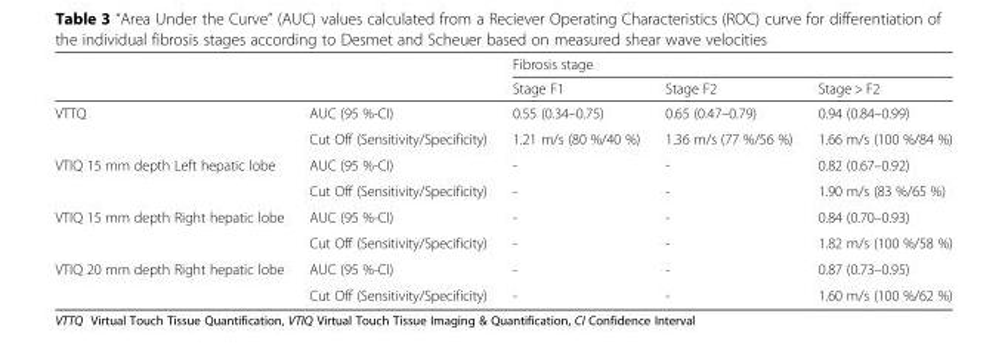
<table><thead><tr><td rowspan="2"></td><td rowspan="2"></td><td colspan="3">Fibrosis stage</td></tr><tr><td>Stage F1</td><td>Stage F2</td><td>Stage &gt; F2</td></tr></thead><tbody><tr><td rowspan="2">VTTQ</td><td>AUC (95 %-CI)</td><td>0.55 (0.34–0.75)</td><td>0.65 (0.47–0.79)</td><td>0.94 (0.84–0.99)</td></tr><tr><td>Cut Off (Sensitivity/Specificity)</td><td>1.21 m/s (80 %/40 %)</td><td>1.36 m/s (77 %/56 %)</td><td>1.66 m/s (100 %/84 %)</td></tr><tr><td rowspan="2">VTIQ 15 mm depth Left hepatic lobe</td><td>AUC (95 %-CI)</td><td>-</td><td>-</td><td>0.82 (0.67–0.92)</td></tr><tr><td>Cut Off (Sensitivity/Specificity)</td><td>-</td><td>-</td><td>1.90 m/s (83 %/65 %)</td></tr><tr><td rowspan="2">VTIQ 15 mm depth Right hepatic lobe</td><td>AUC (95 %-CI)</td><td>-</td><td>-</td><td>0.84 (0.70–0.93)</td></tr><tr><td>Cut Off (Sensitivity/Specificity)</td><td>-</td><td>-</td><td>1.82 m/s (100 %/58 %)</td></tr><tr><td rowspan="2">VTIQ 20 mm depth Right hepatic lobe</td><td>AUC (95 %-CI)</td><td>-</td><td>-</td><td>0.87 (0.73–0.95)</td></tr><tr><td>Cut Off (Sensitivity/Specificity)</td><td>-</td><td>-</td><td>1.60 m/s (100 %/62 %)</td></tr></tbody></table>